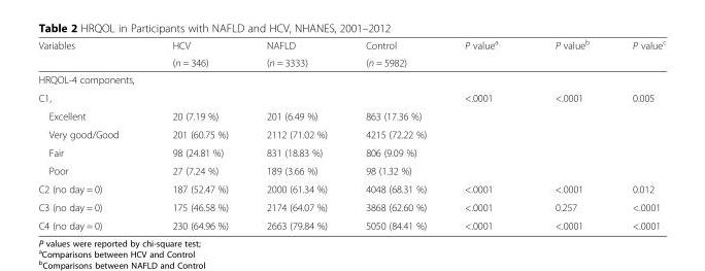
<table><thead><tr><td rowspan="2">Variables</td><td rowspan="2">HCV (n = 346)</td><td rowspan="2">NAFLD (n = 3333)</td><td rowspan="2">Control (n = 5982)</td><td rowspan="2">P value<sup>a</sup></td><td rowspan="2">P value<sup>b</sup></td><td rowspan="2">P value<sup>c</sup></td></tr><tr></tr></thead><tbody><tr><td colspan="7">HRQOL-4 components,</td></tr><tr><td>C1,</td><td></td><td></td><td></td><td>&lt;.0001</td><td>&lt;.0001</td><td>0.005</td></tr><tr><td>Excellent</td><td>20 (7.19 %)</td><td>201 (6.49 %)</td><td>863 (17.36 %)</td><td></td><td></td><td></td></tr><tr><td>Very good/Good</td><td>201 (60.75 %)</td><td>2112 (71.02 %)</td><td>4215 (72.22 %)</td><td></td><td></td><td></td></tr><tr><td>Fair</td><td>98 (24.81 %)</td><td>831 (18.83 %)</td><td>806 (9.09 %)</td><td></td><td></td><td></td></tr><tr><td>Poor</td><td>27 (7.24 %)</td><td>189 (3.66 %)</td><td>98 (1.32 %)</td><td></td><td></td><td></td></tr><tr><td>C2 (no day = 0)</td><td>187 (52.47 %)</td><td>2000 (61.34 %)</td><td>4048 (68.31 %)</td><td>&lt;.0001</td><td>&lt;.0001</td><td>0.012</td></tr><tr><td>C3 (no day = 0)</td><td>175 (46.58 %)</td><td>2174 (64.07 %)</td><td>3868 (62.60 %)</td><td>&lt;.0001</td><td>0.257</td><td>&lt;.0001</td></tr><tr><td>C4 (no day = 0)</td><td>230 (64.96 %)</td><td>2663 (79.84 %)</td><td>5050 (84.41 %)</td><td>&lt;.0001</td><td>&lt;.0001</td><td>&lt;.0001</td></tr></tbody></table>